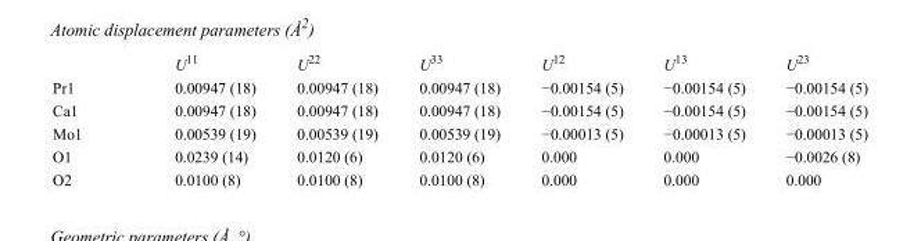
<table><thead><tr><td></td><td>U<sup>11</sup></td><td>U<sup>22</sup></td><td>U<sup>33</sup></td><td>U<sup>12</sup></td><td>U<sup>13</sup></td><td>U<sup>23</sup></td></tr></thead><tbody><tr><td>Pr1</td><td>0.00947 (18)</td><td>0.00947 (18)</td><td>0.00947 (18)</td><td>−0.00154 (5)</td><td>−0.00154 (5)</td><td>−0.00154 (5)</td></tr><tr><td>Ca1</td><td>0.00947 (18)</td><td>0.00947 (18)</td><td>0.00947 (18)</td><td>−0.00154 (5)</td><td>−0.00154 (5)</td><td>−0.00154 (5)</td></tr><tr><td>Mo1</td><td>0.00539 (19)</td><td>0.00539 (19)</td><td>0.00539 (19)</td><td>−0.00013 (5)</td><td>−0.00013 (5)</td><td>−0.00013 (5)</td></tr><tr><td>O1</td><td>0.0239 (14)</td><td>0.0120 (6)</td><td>0.0120 (6)</td><td>0.000</td><td>0.000</td><td>−0.0026 (8)</td></tr><tr><td>O2</td><td>0.0100 (8)</td><td>0.0100 (8)</td><td>0.0100 (8)</td><td>0.000</td><td>0.000</td><td>0.000</td></tr></tbody></table>